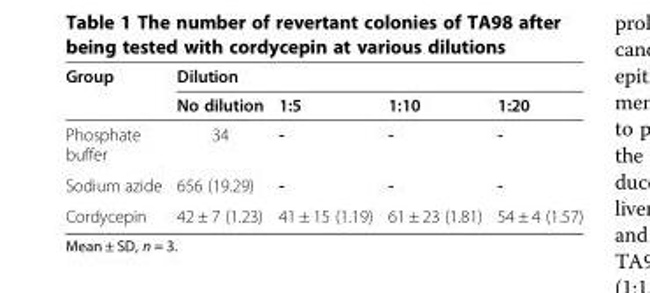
<table><thead><tr><td rowspan="2">Group</td><td colspan="4">Dilution</td></tr><tr><td>No dilution</td><td>1:5</td><td>1:10</td><td>1:20</td></tr></thead><tbody><tr><td>Phosphate buffer</td><td>34</td><td>-</td><td>-</td><td>-</td></tr><tr><td>Sodium azide</td><td>656 (19.29)</td><td>-</td><td>-</td><td>-</td></tr><tr><td>Cordycepin</td><td>42 ± 7 (1.23)</td><td>41 ± 15 (1.19)</td><td>61 ± 23 (1.81)</td><td>54 ± 4 (1.57)</td></tr></tbody></table>